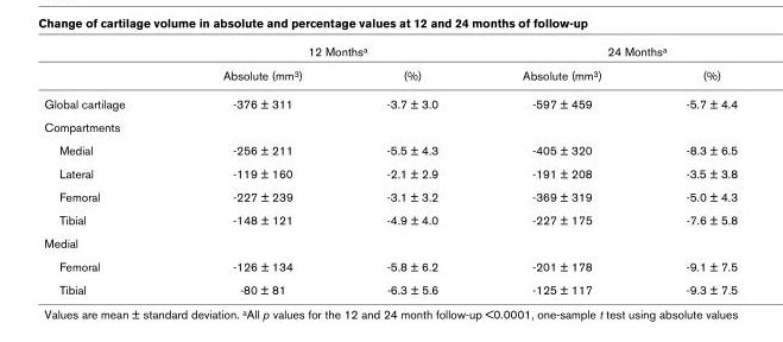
<table><thead><tr><td rowspan="2"></td><td colspan="2">12 Monthsa</td><td colspan="2">24 Monthsa</td></tr><tr><td>Absolute (mm3)</td><td>(%)</td><td>Absolute (mm3)</td><td>(%)</td></tr></thead><tbody><tr><td>Global cartilage</td><td>-376 ± 311</td><td>-3.7 ± 3.0</td><td>-597 ± 459</td><td>-5.7 ± 4.4</td></tr><tr><td colspan="5">Compartments</td></tr><tr><td>Medial</td><td>-256 ± 211</td><td>-5.5 ± 4.3</td><td>-405 ± 320</td><td>-8.3 ± 6.5</td></tr><tr><td>Lateral</td><td>-119 ± 160</td><td>-2.1 ± 2.9</td><td>-191 ± 208</td><td>-3.5 ± 3.8</td></tr><tr><td>Femoral</td><td>-227 ± 239</td><td>-3.1 ± 3.2</td><td>-369 ± 319</td><td>-5.0 ± 4.3</td></tr><tr><td>Tibial</td><td>-148 ± 121</td><td>-4.9 ± 4.0</td><td>-227 ± 175</td><td>-7.6 ± 5.8</td></tr><tr><td colspan="5">Medial</td></tr><tr><td>Femoral</td><td>-126 ± 134</td><td>-5.8 ± 6.2</td><td>-201 ± 178</td><td>-9.1 ± 7.5</td></tr><tr><td>Tibial</td><td>-80 ± 81</td><td>-6.3 ± 5.6</td><td>-125 ± 117</td><td>-9.3 ± 7.5</td></tr></tbody></table>